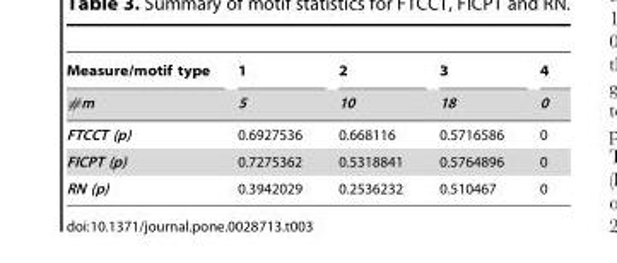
<table><thead><tr><td rowspan="2">Measure/motif type #m</td><td rowspan="2">1 5</td><td rowspan="2">2 10</td><td rowspan="2">3 18</td><td rowspan="2">4 0</td></tr><tr></tr></thead><tbody><tr><td>FTCCT (p)</td><td>0.6927536</td><td>0.668116</td><td>0.5716586</td><td>0</td></tr><tr><td>FICPT (p)</td><td>0.7275362</td><td>0.5318841</td><td>0.5764896</td><td>0</td></tr><tr><td>RN (p)</td><td>0.3942029</td><td>0.2536232</td><td>0.510467</td><td>0</td></tr></tbody></table>